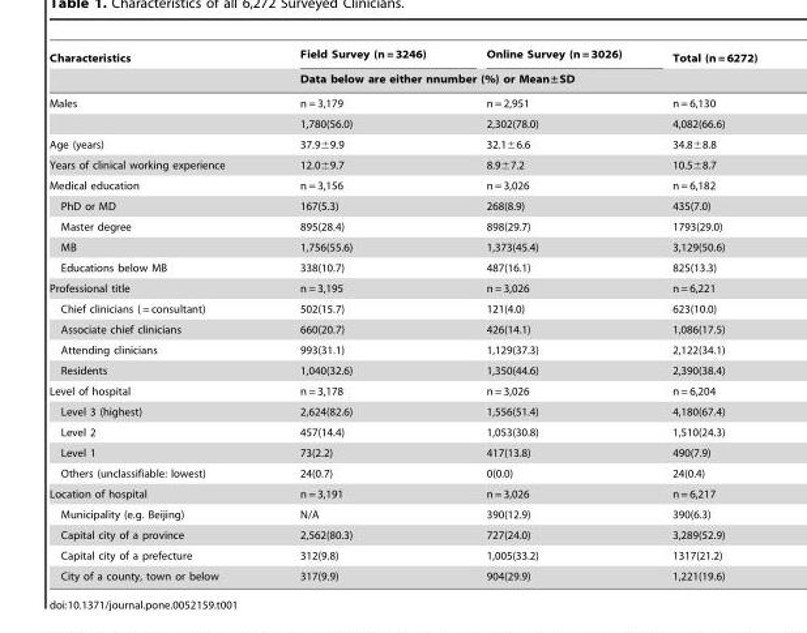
<table><thead><tr><td rowspan="2">Characteristics</td><td>Field Survey (n = 3246)</td><td>Online Survey (n = 3026)</td><td>Total (n = 6272)</td></tr><tr><td colspan="3">Data below are either nnumber (%) or Mean±SD</td></tr></thead><tbody><tr><td rowspan="2">Males</td><td>n = 3,179</td><td>n = 2,951</td><td>n = 6,130</td></tr><tr><td>1,780(56.0)</td><td>2,302(78.0)</td><td>4,082(66.6)</td></tr><tr><td>Age (years)</td><td>37.9±9.9</td><td>32.1±6.6</td><td>34.8±8.8</td></tr><tr><td>Years of clinical working experience</td><td>12.0±9.7</td><td>8.9±7.2</td><td>10.5±8.7</td></tr><tr><td>Medical education</td><td>n = 3,156</td><td>n = 3,026</td><td>n = 6,182</td></tr><tr><td>PhD or MD</td><td>167(5.3)</td><td>268(8.9)</td><td>435(7.0)</td></tr><tr><td>Master degree</td><td>895(28.4)</td><td>898(29.7)</td><td>1793(29.0)</td></tr><tr><td>MB</td><td>1,756(55.6)</td><td>1,373(45.4)</td><td>3,129(50.6)</td></tr><tr><td>Educations below MB</td><td>338(10.7)</td><td>487(16.1)</td><td>825(13.3)</td></tr><tr><td>Professional title</td><td>n = 3,195</td><td>n = 3,026</td><td>n = 6,221</td></tr><tr><td>Chief clinicians ( = consultant)</td><td>502(15.7)</td><td>121(4.0)</td><td>623(10.0)</td></tr><tr><td>Associate chief clinicians</td><td>660(20.7)</td><td>426(14.1)</td><td>1,086(17.5)</td></tr><tr><td>Attending clinicians</td><td>993(31.1)</td><td>1,129(37.3)</td><td>2,122(34.1)</td></tr><tr><td>Residents</td><td>1,040(32.6)</td><td>1,350(44.6)</td><td>2,390(38.4)</td></tr><tr><td>Level of hospital</td><td>n = 3,178</td><td>n = 3,026</td><td>n = 6,204</td></tr><tr><td>Level 3 (highest)</td><td>2,624(82.6)</td><td>1,556(51.4)</td><td>4,180(67.4)</td></tr><tr><td>Level 2</td><td>457(14.4)</td><td>1,053(30.8)</td><td>1,510(24.3)</td></tr><tr><td>Level 1</td><td>73(2.2)</td><td>417(13.8)</td><td>490(7.9)</td></tr><tr><td>Others (unclassifiable: lowest)</td><td>24(0.7)</td><td>0(0.0)</td><td>24(0.4)</td></tr><tr><td>Location of hospital</td><td>n = 3,191</td><td>n = 3,026</td><td>n = 6,217</td></tr><tr><td>Municipality (e.g. Beijing)</td><td>N/A</td><td>390(12.9)</td><td>390(6.3)</td></tr><tr><td>Capital city of a province</td><td>2,562(80.3)</td><td>727(24.0)</td><td>3,289(52.9)</td></tr><tr><td>Capital city of a prefecture</td><td>312(9.8)</td><td>1,005(33.2)</td><td>1317(21.2)</td></tr><tr><td>City of a county, town or below</td><td>317(9.9)</td><td>904(29.9)</td><td>1,221(19.6)</td></tr></tbody></table>